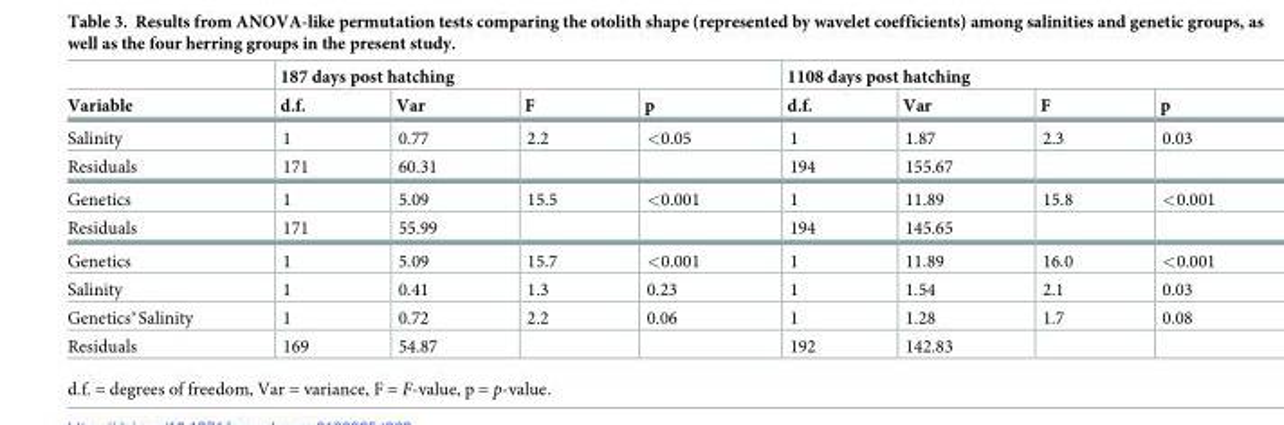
<table><thead><tr><td rowspan="2">Variable</td><td colspan="4">187 days post hatching</td><td colspan="4">1108 days post hatching</td></tr><tr><td>d.f.</td><td>Var</td><td>F</td><td>p</td><td>d.f.</td><td>Var</td><td>F</td><td>p</td></tr></thead><tbody><tr><td>Salinity</td><td>1</td><td>0.77</td><td>2.2</td><td>&lt;0.05</td><td>1</td><td>1.87</td><td>2.3</td><td>0.03</td></tr><tr><td>Residuals</td><td>171</td><td>60.31</td><td></td><td></td><td>194</td><td>155.67</td><td></td><td></td></tr><tr><td>Genetics</td><td>1</td><td>5.09</td><td>15.5</td><td>&lt;0.001</td><td>1</td><td>11.89</td><td>15.8</td><td>&lt;0.001</td></tr><tr><td>Residuals</td><td>171</td><td>55.99</td><td></td><td></td><td>194</td><td>145.65</td><td></td><td></td></tr><tr><td>Genetics</td><td>1</td><td>5.09</td><td>15.7</td><td>&lt;0.001</td><td>1</td><td>11.89</td><td>16.0</td><td>&lt;0.001</td></tr><tr><td>Salinity</td><td>1</td><td>0.41</td><td>1.3</td><td>0.23</td><td>1</td><td>1.54</td><td>2.1</td><td>0.03</td></tr><tr><td>Genetics*Salinity</td><td>1</td><td>0.72</td><td>2.2</td><td>0.06</td><td>1</td><td>1.28</td><td>1.7</td><td>0.08</td></tr><tr><td>Residuals</td><td>169</td><td>54.87</td><td></td><td></td><td>192</td><td>142.83</td><td></td><td></td></tr></tbody></table>